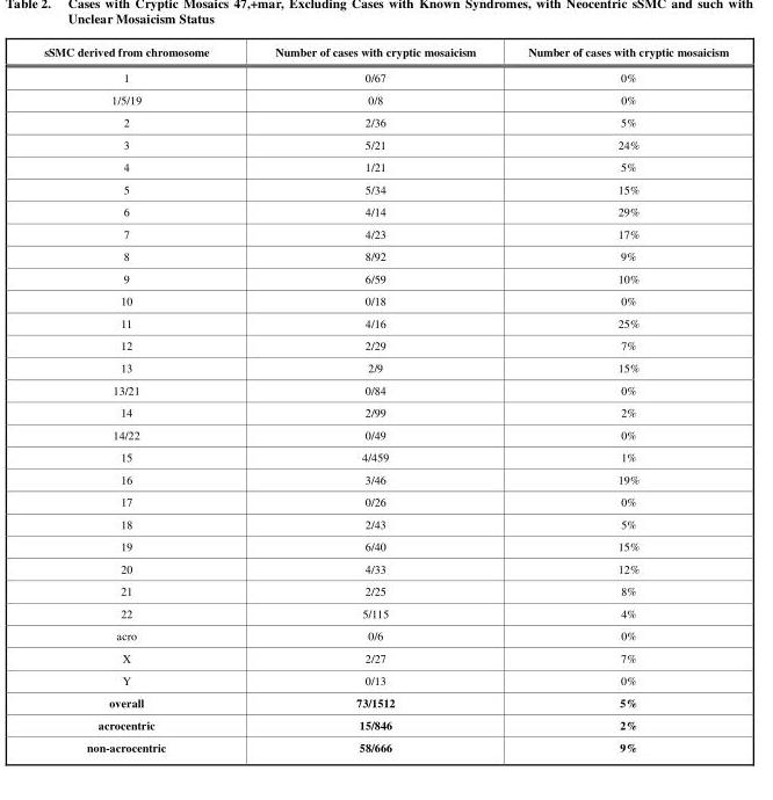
<table><thead><tr><td>sSMC derived from chromosome</td><td>Number of cases with cryptic mosaicism</td><td>Number of cases with cryptic mosaicism</td></tr></thead><tbody><tr><td>1</td><td>0/67</td><td>0%</td></tr><tr><td>1/5/19</td><td>0/8</td><td>0%</td></tr><tr><td>2</td><td>2/36</td><td>5%</td></tr><tr><td>3</td><td>5/21</td><td>24%</td></tr><tr><td>4</td><td>1/21</td><td>5%</td></tr><tr><td>5</td><td>5/34</td><td>15%</td></tr><tr><td>6</td><td>4/14</td><td>29%</td></tr><tr><td>7</td><td>4/23</td><td>17%</td></tr><tr><td>8</td><td>8/92</td><td>9%</td></tr><tr><td>9</td><td>6/59</td><td>10%</td></tr><tr><td>10</td><td>0/18</td><td>0%</td></tr><tr><td>11</td><td>4/16</td><td>25%</td></tr><tr><td>12</td><td>2/29</td><td>7%</td></tr><tr><td>13</td><td>2/9</td><td>15%</td></tr><tr><td>13/21</td><td>0/84</td><td>0%</td></tr><tr><td>14</td><td>2/99</td><td>2%</td></tr><tr><td>14/22</td><td>0/49</td><td>0%</td></tr><tr><td>15</td><td>4/459</td><td>1%</td></tr><tr><td>16</td><td>3/46</td><td>19%</td></tr><tr><td>17</td><td>0/26</td><td>0%</td></tr><tr><td>18</td><td>2/43</td><td>5%</td></tr><tr><td>19</td><td>6/40</td><td>15%</td></tr><tr><td>20</td><td>4/33</td><td>12%</td></tr><tr><td>21</td><td>2/25</td><td>8%</td></tr><tr><td>22</td><td>5/115</td><td>4%</td></tr><tr><td>acro</td><td>0/6</td><td>0%</td></tr><tr><td>X</td><td>2/27</td><td>7%</td></tr><tr><td>Y</td><td>0/13</td><td>0%</td></tr><tr><td>overall</td><td>73/1512</td><td>5%</td></tr><tr><td>acrocentric</td><td>15/846</td><td>2%</td></tr><tr><td>non-acrocentric</td><td>58/666</td><td>9%</td></tr></tbody></table>